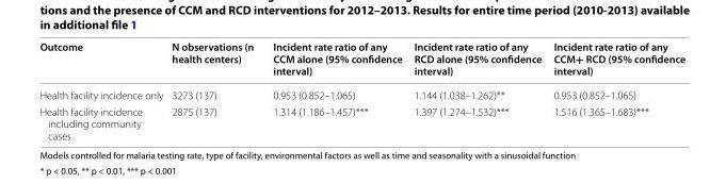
<table><thead><tr><td>Outcome</td><td>N observations (n health centers)</td><td>Incident rate ratio of any CCM alone (95% confidence interval)</td><td>Incident rate ratio of any RCD alone (95% confidence interval)</td><td>Incident rate ratio of any CCM+ RCD (95% confidence interval)</td></tr></thead><tbody><tr><td>Health facility incidence only</td><td>3273 (137)</td><td>0.953 (0.852–1.065)</td><td>1.144 (1.038–1.262)**</td><td>0.953 (0.852–1.065)</td></tr><tr><td>Health facility incidence including community cases</td><td>2875 (137)</td><td>1.314 (1.186–1.457)***</td><td>1.397 (1.274–1.532)***</td><td>1.516 (1.365–1.683)***</td></tr></tbody></table>